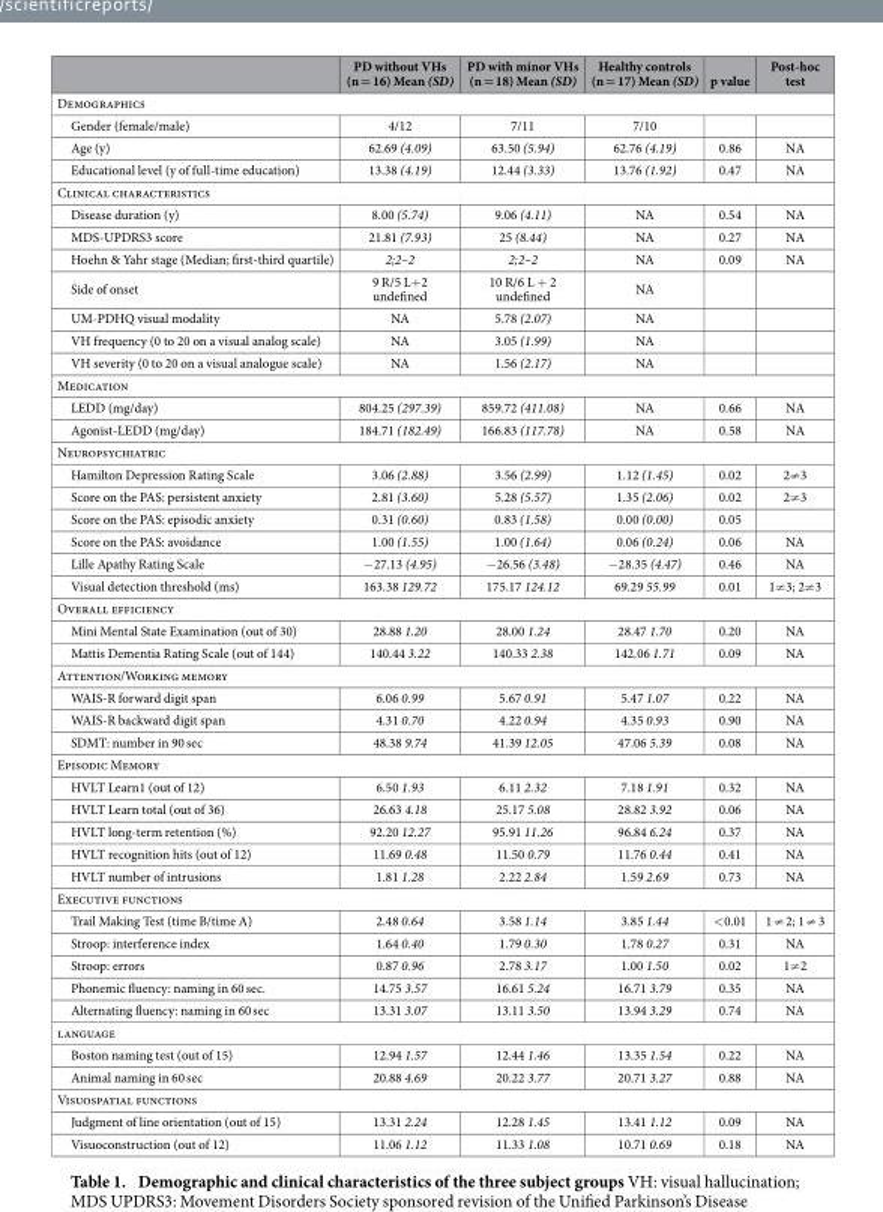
<table><thead><tr><td></td><td>PD without VHs (n = 16) Mean (SD)</td><td>PD with minor VHs (n = 18) Mean (SD)</td><td>Healthy controls (n = 17) Mean (SD)</td><td>p value</td><td>Post-hoc test</td></tr></thead><tbody><tr><td colspan="6">Demographics</td></tr><tr><td>Gender (female/male)</td><td>4/12</td><td>7/11</td><td>7/10</td><td></td><td></td></tr><tr><td>Age (y)</td><td>62.69 (4.09)</td><td>63.50 (5.94)</td><td>62.76 (4.19)</td><td>0.86</td><td>NA</td></tr><tr><td>Educational level (y of full-time education)</td><td>13.38 (4.19)</td><td>12.44 (3.33)</td><td>13.76 (1.92)</td><td>0.47</td><td>NA</td></tr><tr><td colspan="6">Clinical characteristics</td></tr><tr><td>Disease duration (y)</td><td>8.00 (5.74)</td><td>9.06 (4.11)</td><td>NA</td><td>0.54</td><td>NA</td></tr><tr><td>MDS-UPDRS3 score</td><td>21.81 (7.93)</td><td>25 (8.44)</td><td>NA</td><td>0.27</td><td>NA</td></tr><tr><td>Hoehn &amp; Yahr stage (Median; first-third quartile)</td><td>2;2–2</td><td>2;2–2</td><td>NA</td><td>0.09</td><td>NA</td></tr><tr><td>Side of onset</td><td>9 R/5 L+ 2 undefined</td><td>10 R/6 L + 2 undefined</td><td>NA</td><td></td><td></td></tr><tr><td>UM-PDHQ visual modality</td><td>NA</td><td>5.78 (2.07)</td><td>NA</td><td></td><td></td></tr><tr><td>VH frequency (0 to 20 on a visual analog scale)</td><td>NA</td><td>3.05 (1.99)</td><td>NA</td><td></td><td></td></tr><tr><td>VH severity (0 to 20 on a visual analogue scale)</td><td>NA</td><td>1.56 (2.17)</td><td>NA</td><td></td><td></td></tr><tr><td colspan="6">Medication</td></tr><tr><td>LEDD (mg/day)</td><td>804.25 (297.39)</td><td>859.72 (411.08)</td><td>NA</td><td>0.66</td><td>NA</td></tr><tr><td>Agonist-LEDD (mg/day)</td><td>184.71 (182.49)</td><td>166.83 (117.78)</td><td>NA</td><td>0.58</td><td>NA</td></tr><tr><td colspan="6">Neuropsychiatric</td></tr><tr><td>Hamilton Depression Rating Scale</td><td>3.06 (2.88)</td><td>3.56 (2.99)</td><td>1.12 (1.45)</td><td>0.02</td><td>2≠ 3</td></tr><tr><td>Score on the PAS: persistent anxiety</td><td>2.81 (3.60)</td><td>5.28 (5.57)</td><td>1.35 (2.06)</td><td>0.02</td><td>2≠ 3</td></tr><tr><td>Score on the PAS: episodic anxiety</td><td>0.31 (0.60)</td><td>0.83 (1.58)</td><td>0.00 (0.00)</td><td>0.05</td><td></td></tr><tr><td>Score on the PAS: avoidance</td><td>1.00 (1.55)</td><td>1.00 (1.64)</td><td>0.06 (0.24)</td><td>0.06</td><td>NA</td></tr><tr><td>Lille Apathy Rating Scale</td><td>− 27.13 (4.95)</td><td>− 26.56 (3.48)</td><td>− 28.35 (4.47)</td><td>0.46</td><td>NA</td></tr><tr><td>Visual detection threshold (ms)</td><td>163.38 129.72</td><td>175.17 124.12</td><td>69.29 55.99</td><td>0.01</td><td>1≠ 3; 2≠ 3</td></tr><tr><td colspan="6">Overall efficiency</td></tr><tr><td>Mini Mental State Examination (out of 30)</td><td>28.88 1.20</td><td>28.00 1.24</td><td>28.47 1.70</td><td>0.20</td><td>NA</td></tr><tr><td>Mattis Dementia Rating Scale (out of 144)</td><td>140.44 3.22</td><td>140.33 2.38</td><td>142.06 1.71</td><td>0.09</td><td>NA</td></tr><tr><td colspan="6">Attention/Working memory</td></tr><tr><td>WAIS-R forward digit span</td><td>6.06 0.99</td><td>5.67 0.91</td><td>5.47 1.07</td><td>0.22</td><td>NA</td></tr><tr><td>WAIS-R backward digit span</td><td>4.31 0.70</td><td>4.22 0.94</td><td>4.35 0.93</td><td>0.90</td><td>NA</td></tr><tr><td>SDMT: number in 90 sec</td><td>48.38 9.74</td><td>41.39 12.05</td><td>47.06 5.39</td><td>0.08</td><td>NA</td></tr><tr><td colspan="6">Episodic Memory</td></tr><tr><td>HVLT Learn1 (out of 12)</td><td>6.50 1.93</td><td>6.11 2.32</td><td>7.18 1.91</td><td>0.32</td><td>NA</td></tr><tr><td>HVLT Learn total (out of 36)</td><td>26.63 4.18</td><td>25.17 5.08</td><td>28.82 3.92</td><td>0.06</td><td>NA</td></tr><tr><td>HVLT long-term retention (%)</td><td>92.20 12.27</td><td>95.91 11.26</td><td>96.84 6.24</td><td>0.37</td><td>NA</td></tr><tr><td>HVLT recognition hits (out of 12)</td><td>11.69 0.48</td><td>11.50 0.79</td><td>11.76 0.44</td><td>0.41</td><td>NA</td></tr><tr><td>HVLT number of intrusions</td><td>1.81 1.28</td><td>2.22 2.84</td><td>1.59 2.69</td><td>0.73</td><td>NA</td></tr><tr><td colspan="6">Executive functions</td></tr><tr><td>Trail Making Test (time B/time A)</td><td>2.48 0.64</td><td>3.58 1.14</td><td>3.85 1.44</td><td>&lt; 0.01</td><td>1 ≠ 2; 1 ≠ 3</td></tr><tr><td>Stroop: interference index</td><td>1.64 0.40</td><td>1.79 0.30</td><td>1.78 0.27</td><td>0.31</td><td>NA</td></tr><tr><td>Stroop: errors</td><td>0.87 0.96</td><td>2.78 3.17</td><td>1.00 1.50</td><td>0.02</td><td>1≠ 2</td></tr><tr><td>Phonemic fluency: naming in 60 sec.</td><td>14.75 3.57</td><td>16.61 5.24</td><td>16.71 3.79</td><td>0.35</td><td>NA</td></tr><tr><td>Alternating fluency: naming in 60 sec</td><td>13.31 3.07</td><td>13.11 3.50</td><td>13.94 3.29</td><td>0.74</td><td>NA</td></tr><tr><td colspan="6">language</td></tr><tr><td>Boston naming test (out of 15)</td><td>12.94 1.57</td><td>12.44 1.46</td><td>13.35 1.54</td><td>0.22</td><td>NA</td></tr><tr><td>Animal naming in 60 sec</td><td>20.88 4.69</td><td>20.22 3.77</td><td>20.71 3.27</td><td>0.88</td><td>NA</td></tr><tr><td colspan="6">Visuospatial functions</td></tr><tr><td>Judgment of line orientation (out of 15)</td><td>13.31 2.24</td><td>12.28 1.45</td><td>13.41 1.12</td><td>0.09</td><td>NA</td></tr><tr><td>Visuoconstruction (out of 12)</td><td>11.06 1.12</td><td>11.33 1.08</td><td>10.71 0.69</td><td>0.18</td><td>NA</td></tr></tbody></table>